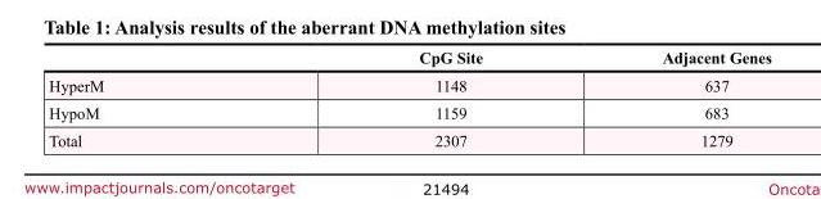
<table><thead><tr><td></td><td>CpG Site</td><td>Adjacent Genes</td></tr></thead><tbody><tr><td>HyperM</td><td>1148</td><td>637</td></tr><tr><td>HypoM</td><td>1159</td><td>683</td></tr><tr><td>Total</td><td>2307</td><td>1279</td></tr></tbody></table>